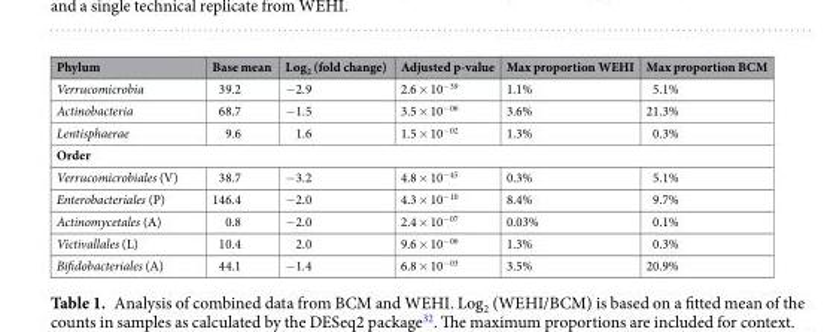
<table><thead><tr><td>Phylum</td><td>Base mean</td><td>Log<sub>2</sub> (fold change)</td><td>Adjusted p-value</td><td>Max proportion WEHI</td><td>Max proportion BCM</td></tr></thead><tbody><tr><td>Verrucomicrobia</td><td>39.2</td><td>−2.9</td><td>2.6 × 10<sup>−39</sup></td><td>1.1%</td><td>5.1%</td></tr><tr><td>Actinobacteria</td><td>68.7</td><td>−1.5</td><td>3.5 × 10<sup>−06</sup></td><td>3.6%</td><td>21.3%</td></tr><tr><td>Lentisphaerae</td><td>9.6</td><td>1.6</td><td>1.5 × 10<sup>−02</sup></td><td>1.3%</td><td>0.3%</td></tr><tr><td colspan="6">Order</td></tr><tr><td>Verrucomicrobiales (V)</td><td>38.7</td><td>−3.2</td><td>4.8 × 10<sup>−45</sup></td><td>0.3%</td><td>5.1%</td></tr><tr><td>Enterobacteriales (P)</td><td>146.4</td><td>−2.0</td><td>4.3 × 10<sup>−10</sup></td><td>8.4%</td><td>9.7%</td></tr><tr><td>Actinomycetales (A)</td><td>0.8</td><td>−2.0</td><td>2.4 × 10<sup>−07</sup></td><td>0.03%</td><td>0.1%</td></tr><tr><td>Victivallales (L)</td><td>10.4</td><td>2.0</td><td>9.6 × 10<sup>−06</sup></td><td>1.3%</td><td>0.3%</td></tr><tr><td>Bifidobacteriales (A)</td><td>44.1</td><td>−1.4</td><td>6.8 × 10<sup>−03</sup></td><td>3.5%</td><td>20.9%</td></tr></tbody></table>